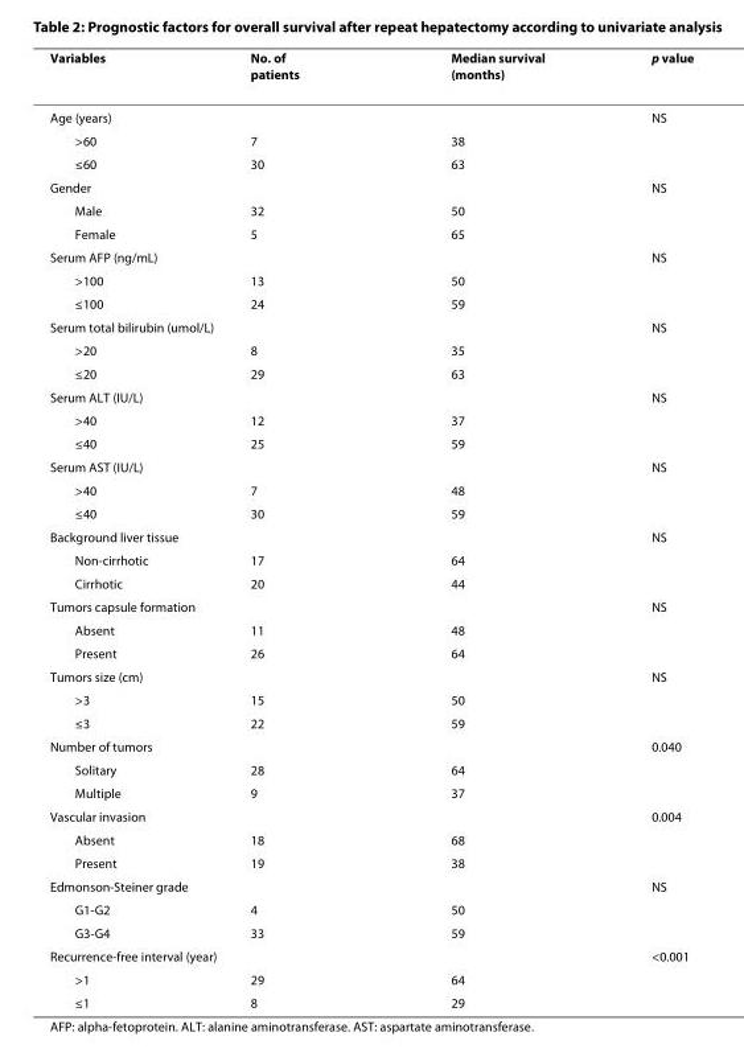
<table><thead><tr><td>Variables</td><td>No. of patients</td><td>Median survival (months)</td><td>p value</td></tr></thead><tbody><tr><td>Age (years)</td><td></td><td></td><td>NS</td></tr><tr><td>&gt;60</td><td>7</td><td>38</td><td></td></tr><tr><td>≤60</td><td>30</td><td>63</td><td></td></tr><tr><td>Gender</td><td></td><td></td><td>NS</td></tr><tr><td>Male</td><td>32</td><td>50</td><td></td></tr><tr><td>Female</td><td>5</td><td>65</td><td></td></tr><tr><td>Serum AFP (ng/mL)</td><td></td><td></td><td>NS</td></tr><tr><td>&gt;100</td><td>13</td><td>50</td><td></td></tr><tr><td>≤100</td><td>24</td><td>59</td><td></td></tr><tr><td>Serum total bilirubin (umol/L)</td><td></td><td></td><td>NS</td></tr><tr><td>&gt;20</td><td>8</td><td>35</td><td></td></tr><tr><td>≤20</td><td>29</td><td>63</td><td></td></tr><tr><td>Serum ALT (IU/L)</td><td></td><td></td><td>NS</td></tr><tr><td>&gt;40</td><td>12</td><td>37</td><td></td></tr><tr><td>≤40</td><td>25</td><td>59</td><td></td></tr><tr><td>Serum AST (IU/L)</td><td></td><td></td><td>NS</td></tr><tr><td>&gt;40</td><td>7</td><td>48</td><td></td></tr><tr><td>≤40</td><td>30</td><td>59</td><td></td></tr><tr><td>Background liver tissue</td><td></td><td></td><td>NS</td></tr><tr><td>Non-cirrhotic</td><td>17</td><td>64</td><td></td></tr><tr><td>Cirrhotic</td><td>20</td><td>44</td><td></td></tr><tr><td>Tumors capsule formation</td><td></td><td></td><td>NS</td></tr><tr><td>Absent</td><td>11</td><td>48</td><td></td></tr><tr><td>Present</td><td>26</td><td>64</td><td></td></tr><tr><td>Tumors size (cm)</td><td></td><td></td><td>NS</td></tr><tr><td>&gt;3</td><td>15</td><td>50</td><td></td></tr><tr><td>≤3</td><td>22</td><td>59</td><td></td></tr><tr><td>Number of tumors</td><td></td><td></td><td>0.040</td></tr><tr><td>Solitary</td><td>28</td><td>64</td><td></td></tr><tr><td>Multiple</td><td>9</td><td>37</td><td></td></tr><tr><td>Vascular invasion</td><td></td><td></td><td>0.004</td></tr><tr><td>Absent</td><td>18</td><td>68</td><td></td></tr><tr><td>Present</td><td>19</td><td>38</td><td></td></tr><tr><td>Edmonson-Steiner grade</td><td></td><td></td><td>NS</td></tr><tr><td>G1-G2</td><td>4</td><td>50</td><td></td></tr><tr><td>G3-G4</td><td>33</td><td>59</td><td></td></tr><tr><td>Recurrence-free interval (year)</td><td></td><td></td><td>&lt;0.001</td></tr><tr><td>&gt;1</td><td>29</td><td>64</td><td></td></tr><tr><td>≤1</td><td>8</td><td>29</td><td></td></tr></tbody></table>